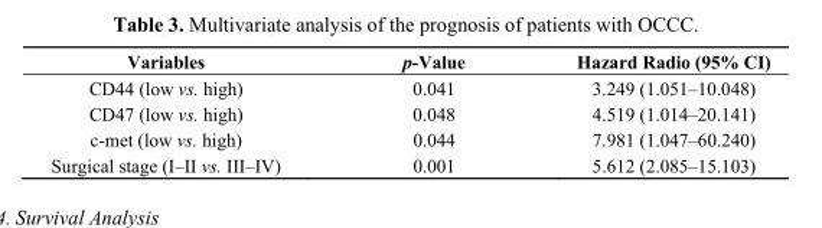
<table><thead><tr><td>Variables</td><td>p-Value</td><td>Hazard Radio (95% CI)</td></tr></thead><tbody><tr><td>CD44 (low vs. high)</td><td>0.041</td><td>3.249 (1.051–10.048)</td></tr><tr><td>CD47 (low vs. high)</td><td>0.048</td><td>4.519 (1.014–20.141)</td></tr><tr><td>c-met (low vs. high)</td><td>0.044</td><td>7.981 (1.047–60.240)</td></tr><tr><td>Surgical stage (I–II vs. III–IV)</td><td>0.001</td><td>5.612 (2.085–15.103)</td></tr></tbody></table>